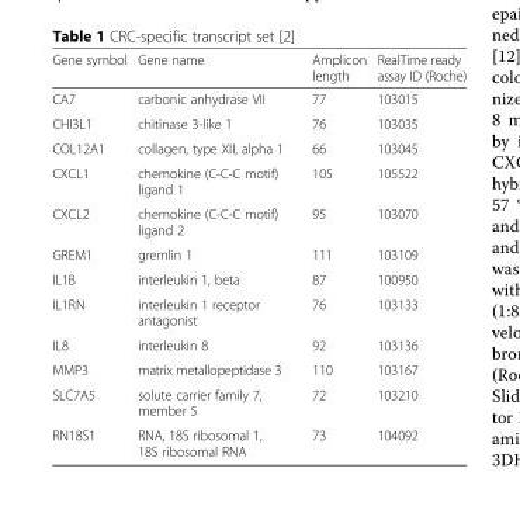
<table><thead><tr><td>Gene symbol</td><td>Gene name</td><td>Amplicon length</td><td>RealTime ready assay ID (Roche)</td></tr></thead><tbody><tr><td>CA7</td><td>carbonic anhydrase VII</td><td>77</td><td>103015</td></tr><tr><td>CHI3L1</td><td>chitinase 3-like 1</td><td>76</td><td>103035</td></tr><tr><td>COL12A1</td><td>collagen, type XII, alpha 1</td><td>66</td><td>103045</td></tr><tr><td>CXCL1</td><td>chemokine (C-C-C motif) ligand 1</td><td>105</td><td>105522</td></tr><tr><td>CXCL2</td><td>chemokine (C-C-C motif) ligand 2</td><td>95</td><td>103070</td></tr><tr><td>GREM1</td><td>gremlin 1</td><td>111</td><td>103109</td></tr><tr><td>IL1B</td><td>interleukin 1, beta</td><td>87</td><td>100950</td></tr><tr><td>IL1RN</td><td>interleukin 1 receptor antagonist</td><td>76</td><td>103133</td></tr><tr><td>IL8</td><td>interleukin 8</td><td>92</td><td>103136</td></tr><tr><td>MMP3</td><td>matrix metallopeptidase 3</td><td>110</td><td>103167</td></tr><tr><td>SLC7A5</td><td>solute carrier family 7, member 5</td><td>72</td><td>103210</td></tr><tr><td>RN18S1</td><td>RNA, 18S ribosomal 1, 18S ribosomal RNA</td><td>73</td><td>104092</td></tr></tbody></table>